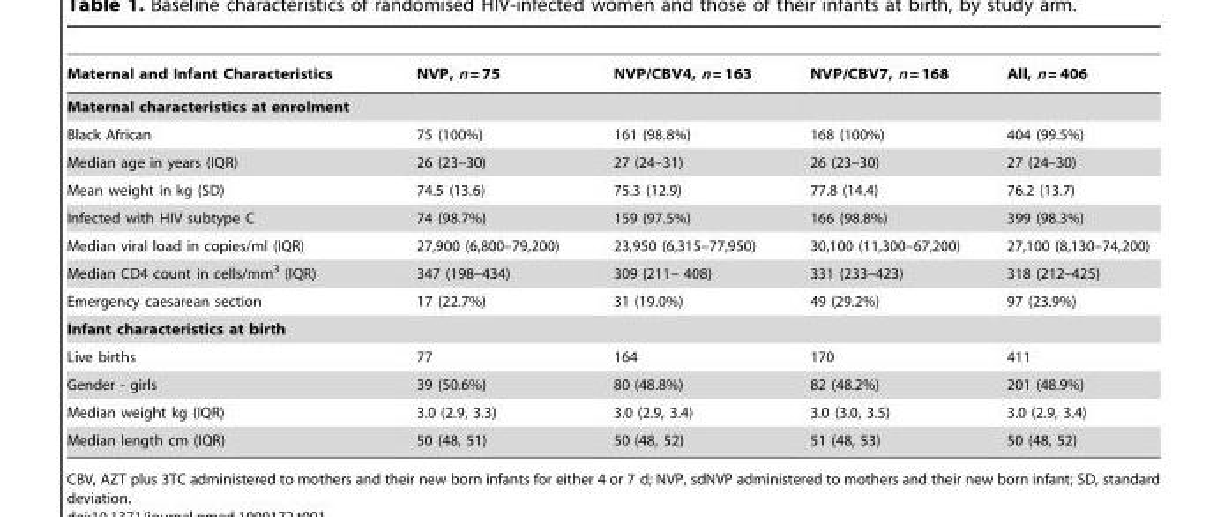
<table><thead><tr><td>Maternal and Infant Characteristics</td><td>NVP, n = 75</td><td>NVP/CBV4, n = 163</td><td>NVP/CBV7, n = 168</td><td>All, n = 406</td></tr></thead><tbody><tr><td colspan="5">Maternal characteristics at enrolment</td></tr><tr><td>Black African</td><td>75 (100%)</td><td>161 (98.8%)</td><td>168 (100%)</td><td>404 (99.5%)</td></tr><tr><td>Median age in years (IQR)</td><td>26 (23–30)</td><td>27 (24–31)</td><td>26 (23–30)</td><td>27 (24–30)</td></tr><tr><td>Mean weight in kg (SD)</td><td>74.5 (13.6)</td><td>75.3 (12.9)</td><td>77.8 (14.4)</td><td>76.2 (13.7)</td></tr><tr><td>Infected with HIV subtype C</td><td>74 (98.7%)</td><td>159 (97.5%)</td><td>166 (98.8%)</td><td>399 (98.3%)</td></tr><tr><td>Median viral load in copies/ml (IQR)</td><td>27,900 (6,800–79,200)</td><td>23,950 (6,315–77,950)</td><td>30,100 (11,300–67,200)</td><td>27,100 (8,130–74,200)</td></tr><tr><td>Median CD4 count in cells/mm<sup>3</sup> (IQR)</td><td>347 (198–434)</td><td>309 (211– 408)</td><td>331 (233–423)</td><td>318 (212–425)</td></tr><tr><td>Emergency caesarean section</td><td>17 (22.7%)</td><td>31 (19.0%)</td><td>49 (29.2%)</td><td>97 (23.9%)</td></tr><tr><td colspan="5">Infant characteristics at birth</td></tr><tr><td>Live births</td><td>77</td><td>164</td><td>170</td><td>411</td></tr><tr><td>Gender - girls</td><td>39 (50.6%)</td><td>80 (48.8%)</td><td>82 (48.2%)</td><td>201 (48.9%)</td></tr><tr><td>Median weight kg (IQR)</td><td>3.0 (2.9, 3.3)</td><td>3.0 (2.9, 3.4)</td><td>3.0 (3.0, 3.5)</td><td>3.0 (2.9, 3.4)</td></tr><tr><td>Median length cm (IQR)</td><td>50 (48, 51)</td><td>50 (48, 52)</td><td>51 (48, 53)</td><td>50 (48, 52)</td></tr></tbody></table>